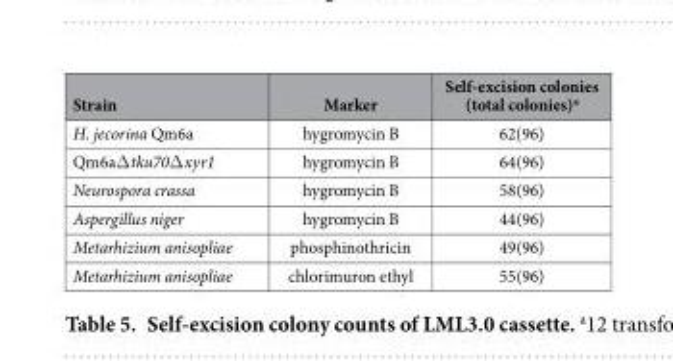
<table><thead><tr><td>Strain</td><td>Marker</td><td>Self-excision colonies (total colonies)<sup>a</sup></td></tr></thead><tbody><tr><td>H. jecorina Qm6a</td><td>hygromycin B</td><td>62(96)</td></tr><tr><td>Qm6aΔ tku70Δ xyr1</td><td>hygromycin B</td><td>64(96)</td></tr><tr><td>Neurospora crassa</td><td>hygromycin B</td><td>58(96)</td></tr><tr><td>Aspergillus niger</td><td>hygromycin B</td><td>44(96)</td></tr><tr><td>Metarhizium anisopliae</td><td>phosphinothricin</td><td>49(96)</td></tr><tr><td>Metarhizium anisopliae</td><td>chlorimuron ethyl</td><td>55(96)</td></tr></tbody></table>